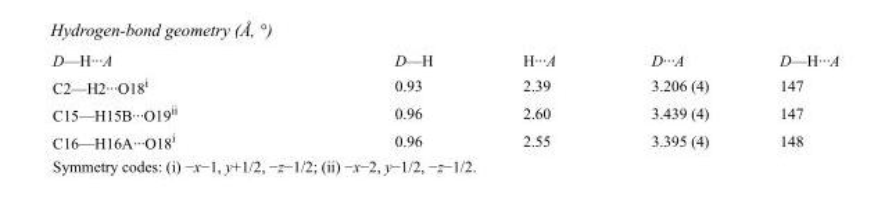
<table><tbody><tr><td>D—H···A</td><td>D—H</td><td>H···A</td><td>D···A</td><td>D—H···A</td></tr><tr><td>C2—H2···O18<sup>i</sup></td><td>0.93</td><td>2.39</td><td>3.206 (4)</td><td>147</td></tr><tr><td>C15—H15B···O19<sup>ii</sup></td><td>0.96</td><td>2.60</td><td>3.439 (4)</td><td>147</td></tr><tr><td>C16—H16A···O18<sup>i</sup></td><td>0.96</td><td>2.55</td><td>3.395 (4)</td><td>148</td></tr></tbody></table>